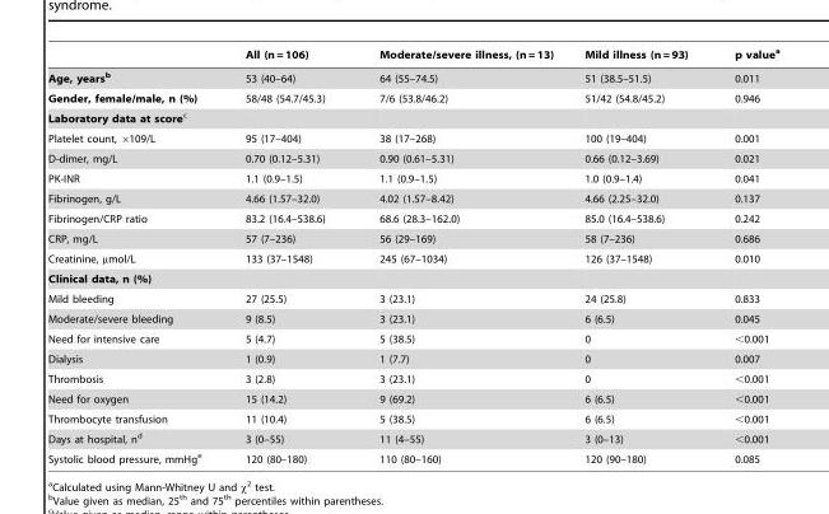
<table><thead><tr><td></td><td>All (n = 106)</td><td>Moderate/severe illness, (n = 13)</td><td>Mild illness (n = 93)</td><td>p value<sup>a</sup></td></tr></thead><tbody><tr><td>Age, yearsb</td><td>53 (40–64)</td><td>64 (55–74.5)</td><td>51 (38.5–51.5)</td><td>0.011</td></tr><tr><td>Gender, female/male, n (%)</td><td>58/48 (54.7/45.3)</td><td>7/6 (53.8/46.2)</td><td>51/42 (54.8/45.2)</td><td>0.946</td></tr><tr><td colspan="5">Laboratory data at scorec</td></tr><tr><td>Platelet count, ×109/L</td><td>95 (17–404)</td><td>38 (17–268)</td><td>100 (19–404)</td><td>0.001</td></tr><tr><td>D-dimer, mg/L</td><td>0.70 (0.12–5.31)</td><td>0.90 (0.61–5.31)</td><td>0.66 (0.12–3.69)</td><td>0.021</td></tr><tr><td>PK-INR</td><td>1.1 (0.9–1.5)</td><td>1.1 (0.9–1.5)</td><td>1.0 (0.9–1.4)</td><td>0.041</td></tr><tr><td>Fibrinogen, g/L</td><td>4.66 (1.57–32.0)</td><td>4.02 (1.57–8.42)</td><td>4.66 (2.25–32.0)</td><td>0.137</td></tr><tr><td>Fibrinogen/CRP ratio</td><td>83.2 (16.4–538.6)</td><td>68.6 (28.3–162.0)</td><td>85.0 (16.4–538.6)</td><td>0.242</td></tr><tr><td>CRP, mg/L</td><td>57 (7–236)</td><td>56 (29–169)</td><td>58 (7–236)</td><td>0.686</td></tr><tr><td>Creatinine, µmol/L</td><td>133 (37–1548)</td><td>245 (67–1034)</td><td>126 (37–1548)</td><td>0.010</td></tr><tr><td colspan="5">Clinical data, n (%)</td></tr><tr><td>Mild bleeding</td><td>27 (25.5)</td><td>3 (23.1)</td><td>24 (25.8)</td><td>0.833</td></tr><tr><td>Moderate/severe bleeding</td><td>9 (8.5)</td><td>3 (23.1)</td><td>6 (6.5)</td><td>0.045</td></tr><tr><td>Need for intensive care</td><td>5 (4.7)</td><td>5 (38.5)</td><td>0</td><td>&lt;0.001</td></tr><tr><td>Dialysis</td><td>1 (0.9)</td><td>1 (7.7)</td><td>0</td><td>0.007</td></tr><tr><td>Thrombosis</td><td>3 (2.8)</td><td>3 (23.1)</td><td>0</td><td>&lt;0.001</td></tr><tr><td>Need for oxygen</td><td>15 (14.2)</td><td>9 (69.2)</td><td>6 (6.5)</td><td>&lt;0.001</td></tr><tr><td>Thrombocyte transfusion</td><td>11 (10.4)</td><td>5 (38.5)</td><td>6 (6.5)</td><td>&lt;0.001</td></tr><tr><td>Days at hospital, n<sup>d</sup></td><td>3 (0–55)</td><td>11 (4–55)</td><td>3 (0–13)</td><td>&lt;0.001</td></tr><tr><td>Systolic blood pressure, mmHg<sup>e</sup></td><td>120 (80–180)</td><td>110 (80–160)</td><td>120 (90–180)</td><td>0.085</td></tr></tbody></table>